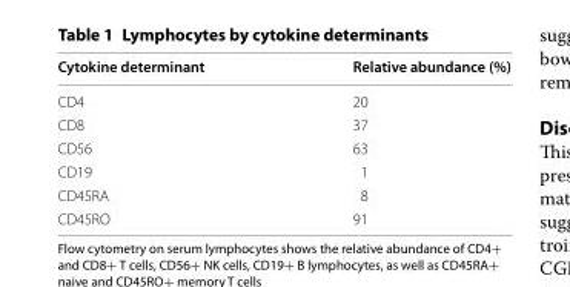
<table><thead><tr><td>Cytokine determinant</td><td>Relative abundance (%)</td></tr></thead><tbody><tr><td>CD4</td><td>20</td></tr><tr><td>CD8</td><td>37</td></tr><tr><td>CD56</td><td>63</td></tr><tr><td>CD19</td><td>1</td></tr><tr><td>CD45RA</td><td>8</td></tr><tr><td>CD45RO</td><td>91</td></tr></tbody></table>